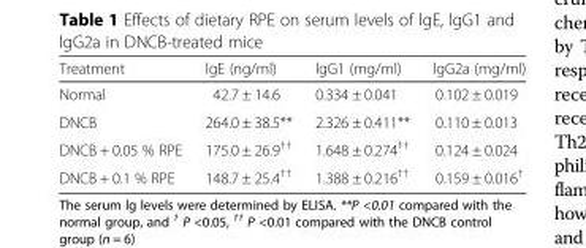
<table><thead><tr><td>Treatment</td><td>lgE (ng/ml)</td><td>lgG1 (mg/ml)</td><td>lgG2a (mg/ml)</td></tr></thead><tbody><tr><td>Normal</td><td>42.7 ± 14.6</td><td>0.334 ± 0.041</td><td>0.102 ± 0.019</td></tr><tr><td>DNCB</td><td>264.0 ± 38.5**</td><td>2.326 ± 0.411**</td><td>0.110 ± 0.013</td></tr><tr><td>DNCB + 0.05 % RPE</td><td>175.0 ± 26.9<sup>††</sup></td><td>1.648 ± 0.274<sup>††</sup></td><td>0.124 ± 0.024</td></tr><tr><td>DNCB + 0.1 % RPE</td><td>148.7 ± 25.4<sup>††</sup></td><td>1.388 ± 0.216<sup>††</sup></td><td>0.159 ± 0.016<sup>†</sup></td></tr></tbody></table>